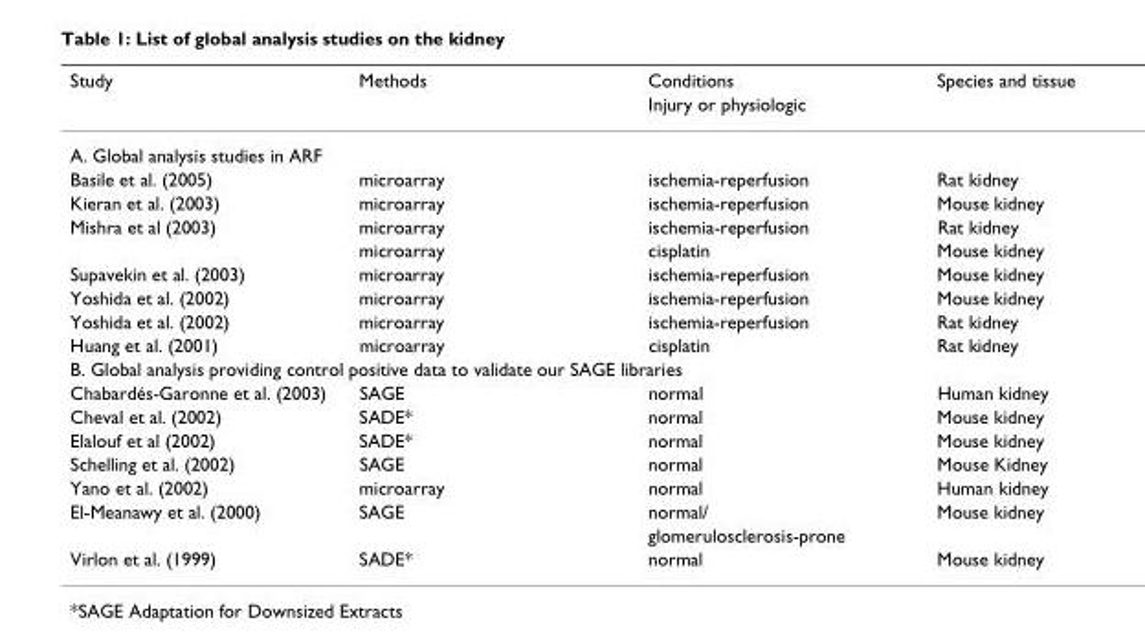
<table><thead><tr><td rowspan="2">Study</td><td rowspan="2">Methods</td><td rowspan="2">Conditions Injury or physiologic</td><td rowspan="2">Species and tissue</td></tr><tr></tr></thead><tbody><tr><td colspan="4">A. Global analysis studies in ARF</td></tr><tr><td>Basile et al. (2005)</td><td>microarray</td><td>ischemia-reperfusion</td><td>Rat kidney</td></tr><tr><td>Kieran et al. (2003)</td><td>microarray</td><td>ischemia-reperfusion</td><td>Mouse kidney</td></tr><tr><td rowspan="2">Mishra et al (2003)</td><td>microarray</td><td>ischemia-reperfusion</td><td>Rat kidney</td></tr><tr><td>microarray</td><td>cisplatin</td><td>Mouse kidney</td></tr><tr><td>Supavekin et al. (2003)</td><td>microarray</td><td>ischemia-reperfusion</td><td>Mouse kidney</td></tr><tr><td>Yoshida et al. (2002)</td><td>microarray</td><td>ischemia-reperfusion</td><td>Mouse kidney</td></tr><tr><td>Yoshida et al. (2002)</td><td>microarray</td><td>ischemia-reperfusion</td><td>Rat kidney</td></tr><tr><td>Huang et al. (2001)</td><td>microarray</td><td>cisplatin</td><td>Rat kidney</td></tr><tr><td colspan="4">B. Global analysis providing control positive data to validate our SAGE libraries</td></tr><tr><td>Chabardés-Garonne et al. (2003)</td><td>SAGE</td><td>normal</td><td>Human kidney</td></tr><tr><td>Cheval et al. (2002)</td><td>SADE*</td><td>normal</td><td>Mouse kidney</td></tr><tr><td>Elalouf et al (2002)</td><td>SADE*</td><td>normal</td><td>Mouse kidney</td></tr><tr><td>Schelling et al. (2002)</td><td>SAGE</td><td>normal</td><td>Mouse Kidney</td></tr><tr><td>Yano et al. (2002)</td><td>microarray</td><td>normal</td><td>Human kidney</td></tr><tr><td rowspan="2">El-Meanawy et al. (2000)</td><td>SAGE</td><td>normal/</td><td>Mouse kidney</td></tr><tr><td></td><td>glomerulosclerosis-prone</td><td></td></tr><tr><td>Virlon et al. (1999)</td><td>SADE*</td><td>normal</td><td>Mouse kidney</td></tr></tbody></table>